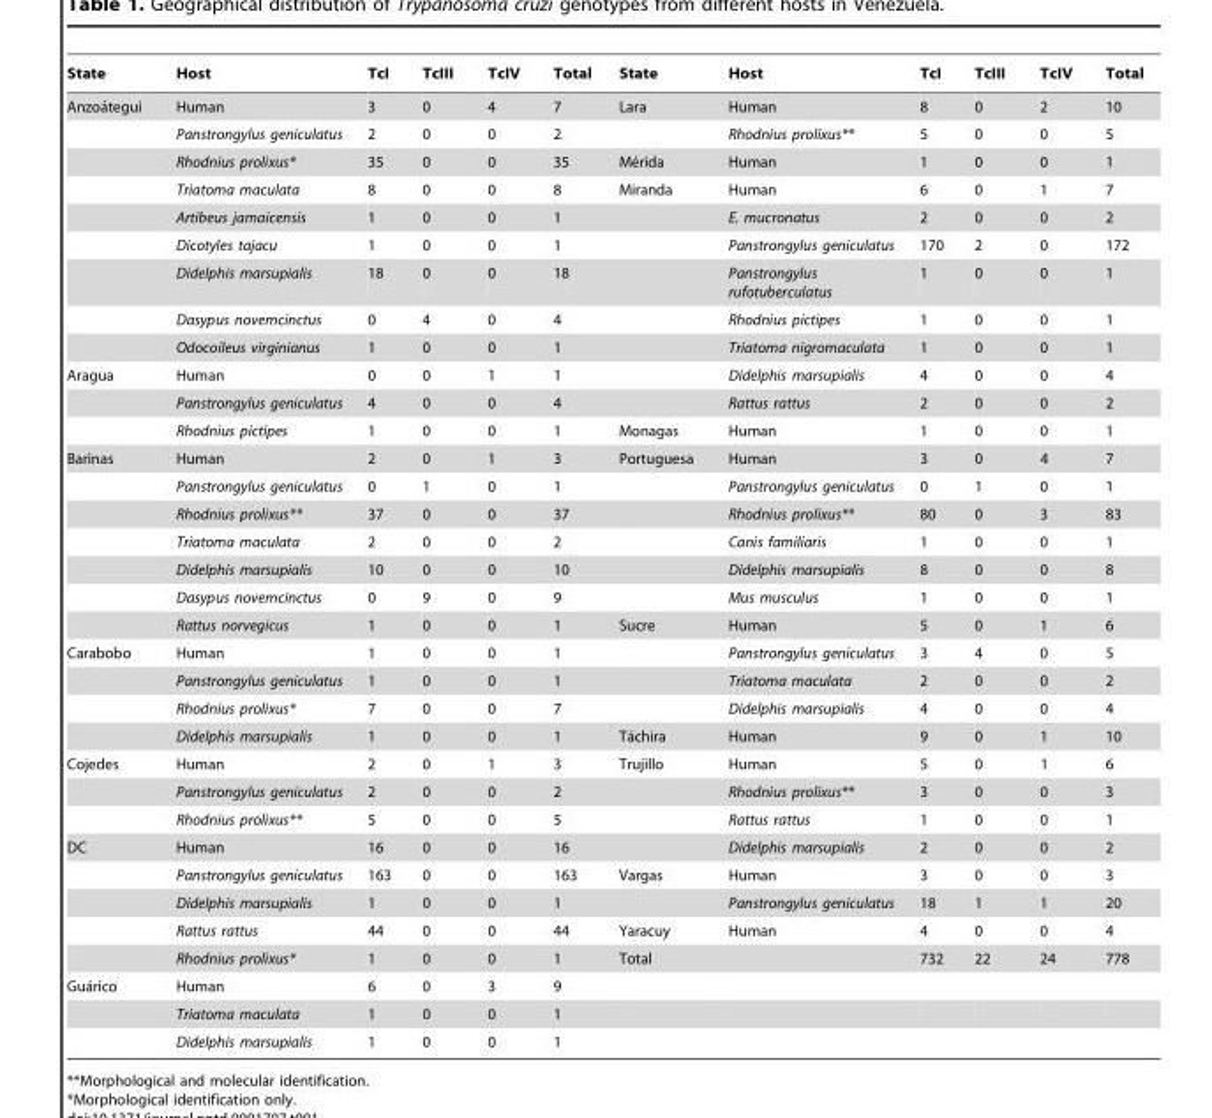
<table><thead><tr><td>State</td><td>Host</td><td>TcI</td><td>TcIII</td><td>TcIV</td><td>Total</td><td>State</td><td>Host</td><td>TcI</td><td>TcIII</td><td>TcIV</td><td>Total</td></tr></thead><tbody><tr><td rowspan="9">Anzoa´tegui</td><td>Human</td><td>3</td><td>0</td><td>4</td><td>7</td><td>Lara</td><td>Human</td><td>8</td><td>0</td><td>2</td><td>10</td></tr><tr><td>Panstrongylus geniculatus</td><td>2</td><td>0</td><td>0</td><td>2</td><td></td><td>Rhodnius prolixus**</td><td>5</td><td>0</td><td>0</td><td>5</td></tr><tr><td>Rhodnius prolixus*</td><td>35</td><td>0</td><td>0</td><td>35</td><td>Me´rida</td><td>Human</td><td>1</td><td>0</td><td>0</td><td>1</td></tr><tr><td>Triatoma maculata</td><td>8</td><td>0</td><td>0</td><td>8</td><td>Miranda</td><td>Human</td><td>6</td><td>0</td><td>1</td><td>7</td></tr><tr><td>Artibeus jamaicensis</td><td>1</td><td>0</td><td>0</td><td>1</td><td></td><td>E. mucronatus</td><td>2</td><td>0</td><td>0</td><td>2</td></tr><tr><td>Dicotyles tajacu</td><td>1</td><td>0</td><td>0</td><td>1</td><td></td><td>Panstrongylus geniculatus</td><td>170</td><td>2</td><td>0</td><td>172</td></tr><tr><td>Didelphis marsupialis</td><td>18</td><td>0</td><td>0</td><td>18</td><td></td><td>Panstrongylus rufotuberculatus</td><td>1</td><td>0</td><td>0</td><td>1</td></tr><tr><td>Dasypus novemcinctus</td><td>0</td><td>4</td><td>0</td><td>4</td><td></td><td>Rhodnius pictipes</td><td>1</td><td>0</td><td>0</td><td>1</td></tr><tr><td>Odocoileus virginianus</td><td>1</td><td>0</td><td>0</td><td>1</td><td></td><td>Triatoma nigromaculata</td><td>1</td><td>0</td><td>0</td><td>1</td></tr><tr><td rowspan="3">Aragua</td><td>Human</td><td>0</td><td>0</td><td>1</td><td>1</td><td></td><td>Didelphis marsupialis</td><td>4</td><td>0</td><td>0</td><td>4</td></tr><tr><td>Panstrongylus geniculatus</td><td>4</td><td>0</td><td>0</td><td>4</td><td></td><td>Rattus rattus</td><td>2</td><td>0</td><td>0</td><td>2</td></tr><tr><td>Rhodnius pictipes</td><td>1</td><td>0</td><td>0</td><td>1</td><td>Monagas</td><td>Human</td><td>1</td><td>0</td><td>0</td><td>1</td></tr><tr><td rowspan="7">Barinas</td><td>Human</td><td>2</td><td>0</td><td>1</td><td>3</td><td>Portuguesa</td><td>Human</td><td>3</td><td>0</td><td>4</td><td>7</td></tr><tr><td>Panstrongylus geniculatus</td><td>0</td><td>1</td><td>0</td><td>1</td><td></td><td>Panstrongylus geniculatus</td><td>0</td><td>1</td><td>0</td><td>1</td></tr><tr><td>Rhodnius prolixus**</td><td>37</td><td>0</td><td>0</td><td>37</td><td></td><td>Rhodnius prolixus**</td><td>80</td><td>0</td><td>3</td><td>83</td></tr><tr><td>Triatoma maculata</td><td>2</td><td>0</td><td>0</td><td>2</td><td></td><td>Canis familiaris</td><td>1</td><td>0</td><td>0</td><td>1</td></tr><tr><td>Didelphis marsupialis</td><td>10</td><td>0</td><td>0</td><td>10</td><td></td><td>Didelphis marsupialis</td><td>8</td><td>0</td><td>0</td><td>8</td></tr><tr><td>Dasypus novemcinctus</td><td>0</td><td>9</td><td>0</td><td>9</td><td></td><td>Mus musculus</td><td>1</td><td>0</td><td>0</td><td>1</td></tr><tr><td>Rattus norvegicus</td><td>1</td><td>0</td><td>0</td><td>1</td><td>Sucre</td><td>Human</td><td>5</td><td>0</td><td>1</td><td>6</td></tr><tr><td rowspan="4">Carabobo</td><td>Human</td><td>1</td><td>0</td><td>0</td><td>1</td><td></td><td>Panstrongylus geniculatus</td><td>3</td><td>4</td><td>0</td><td>5</td></tr><tr><td>Panstrongylus geniculatus</td><td>1</td><td>0</td><td>0</td><td>1</td><td></td><td>Triatoma maculata</td><td>2</td><td>0</td><td>0</td><td>2</td></tr><tr><td>Rhodnius prolixus*</td><td>7</td><td>0</td><td>0</td><td>7</td><td></td><td>Didelphis marsupialis</td><td>4</td><td>0</td><td>0</td><td>4</td></tr><tr><td>Didelphis marsupialis</td><td>1</td><td>0</td><td>0</td><td>1</td><td>Ta´chira</td><td>Human</td><td>9</td><td>0</td><td>1</td><td>10</td></tr><tr><td rowspan="3">Cojedes</td><td>Human</td><td>2</td><td>0</td><td>1</td><td>3</td><td>Trujillo</td><td>Human</td><td>5</td><td>0</td><td>1</td><td>6</td></tr><tr><td>Panstrongylus geniculatus</td><td>2</td><td>0</td><td>0</td><td>2</td><td></td><td>Rhodnius prolixus**</td><td>3</td><td>0</td><td>0</td><td>3</td></tr><tr><td>Rhodnius prolixus**</td><td>5</td><td>0</td><td>0</td><td>5</td><td></td><td>Rattus rattus</td><td>1</td><td>0</td><td>0</td><td>1</td></tr><tr><td rowspan="5">DC</td><td>Human</td><td>16</td><td>0</td><td>0</td><td>16</td><td></td><td>Didelphis marsupialis</td><td>2</td><td>0</td><td>0</td><td>2</td></tr><tr><td>Panstrongylus geniculatus</td><td>163</td><td>0</td><td>0</td><td>163</td><td>Vargas</td><td>Human</td><td>3</td><td>0</td><td>0</td><td>3</td></tr><tr><td>Didelphis marsupialis</td><td>1</td><td>0</td><td>0</td><td>1</td><td></td><td>Panstrongylus geniculatus</td><td>18</td><td>1</td><td>1</td><td>20</td></tr><tr><td>Rattus rattus</td><td>44</td><td>0</td><td>0</td><td>44</td><td>Yaracuy</td><td>Human</td><td>4</td><td>0</td><td>0</td><td>4</td></tr><tr><td>Rhodnius prolixus*</td><td>1</td><td>0</td><td>0</td><td>1</td><td>Total</td><td></td><td>732</td><td>22</td><td>24</td><td>778</td></tr><tr><td rowspan="3">Gua´rico</td><td>Human</td><td>6</td><td>0</td><td>3</td><td>9</td><td></td><td></td><td></td><td></td><td></td><td></td></tr><tr><td>Triatoma maculata</td><td>1</td><td>0</td><td>0</td><td>1</td><td></td><td></td><td></td><td></td><td></td><td></td></tr><tr><td>Didelphis marsupialis</td><td>1</td><td>0</td><td>0</td><td>1</td><td></td><td></td><td></td><td></td><td></td><td></td></tr></tbody></table>